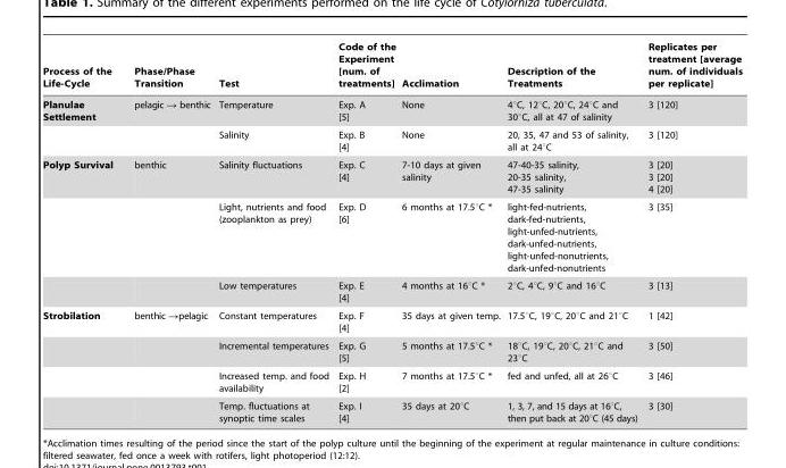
<table><thead><tr><td>Process of the Life-Cycle</td><td>Phase/Phase Transition</td><td>Test</td><td>Code of the Experiment [num. of treatments]</td><td>Acclimation</td><td>Description of the Treatments</td><td>Replicates per treatment [average num. of individuals per replicate]</td></tr></thead><tbody><tr><td rowspan="2">Planulae Settlement</td><td>pelagic → benthic</td><td>Temperature</td><td>Exp. A [5]</td><td>None</td><td>4°C, 12°C, 20°C, 24°C and 30°C, all at 47 of salinity</td><td>3 [120]</td></tr><tr><td></td><td>Salinity</td><td>Exp. B [4]</td><td>None</td><td>20, 35, 47 and 53 of salinity, all at 24°C</td><td>3 [120]</td></tr><tr><td rowspan="3">Polyp Survival</td><td>benthic</td><td>Salinity fluctuations</td><td>Exp. C [4]</td><td>7-10 days at given salinity</td><td>47-40-35 salinity, 20-35 salinity, 47-35 salinity</td><td>3 [20] 3 [20] 4 [20]</td></tr><tr><td></td><td>Light, nutrients and food (zooplankton as prey)</td><td>Exp. D [6]</td><td>6 months at 17.5°C *</td><td>light-fed-nutrients, dark-fed-nutrients, light-unfed-nutrients, dark-unfed-nutrients, light-unfed-nonutrients, dark-unfed-nonutrients</td><td>3 [35]</td></tr><tr><td></td><td>Low temperatures</td><td>Exp. E [4]</td><td>4 months at 16°C *</td><td>2°C, 4°C, 9°C and 16°C</td><td>3 [13]</td></tr><tr><td rowspan="4">Strobilation</td><td>benthic →pelagic</td><td>Constant temperatures</td><td>Exp. F [4]</td><td>35 days at given temp.</td><td>17.5°C, 19°C, 20°C and 21°C</td><td>1 [42]</td></tr><tr><td></td><td>Incremental temperatures</td><td>Exp. G [5]</td><td>5 months at 17.5°C *</td><td>18°C, 19°C, 20°C, 21°C and 23°C</td><td>3 [50]</td></tr><tr><td></td><td>Increased temp. and food availability</td><td>Exp. H [2]</td><td>7 months at 17.5°C *</td><td>fed and unfed, all at 26°C</td><td>3 [46]</td></tr><tr><td></td><td>Temp. fluctuations at synoptic time scales</td><td>Exp. I [4]</td><td>35 days at 20°C</td><td>1, 3, 7, and 15 days at 16°C, then put back at 20°C (45 days)</td><td>3 [30]</td></tr></tbody></table>